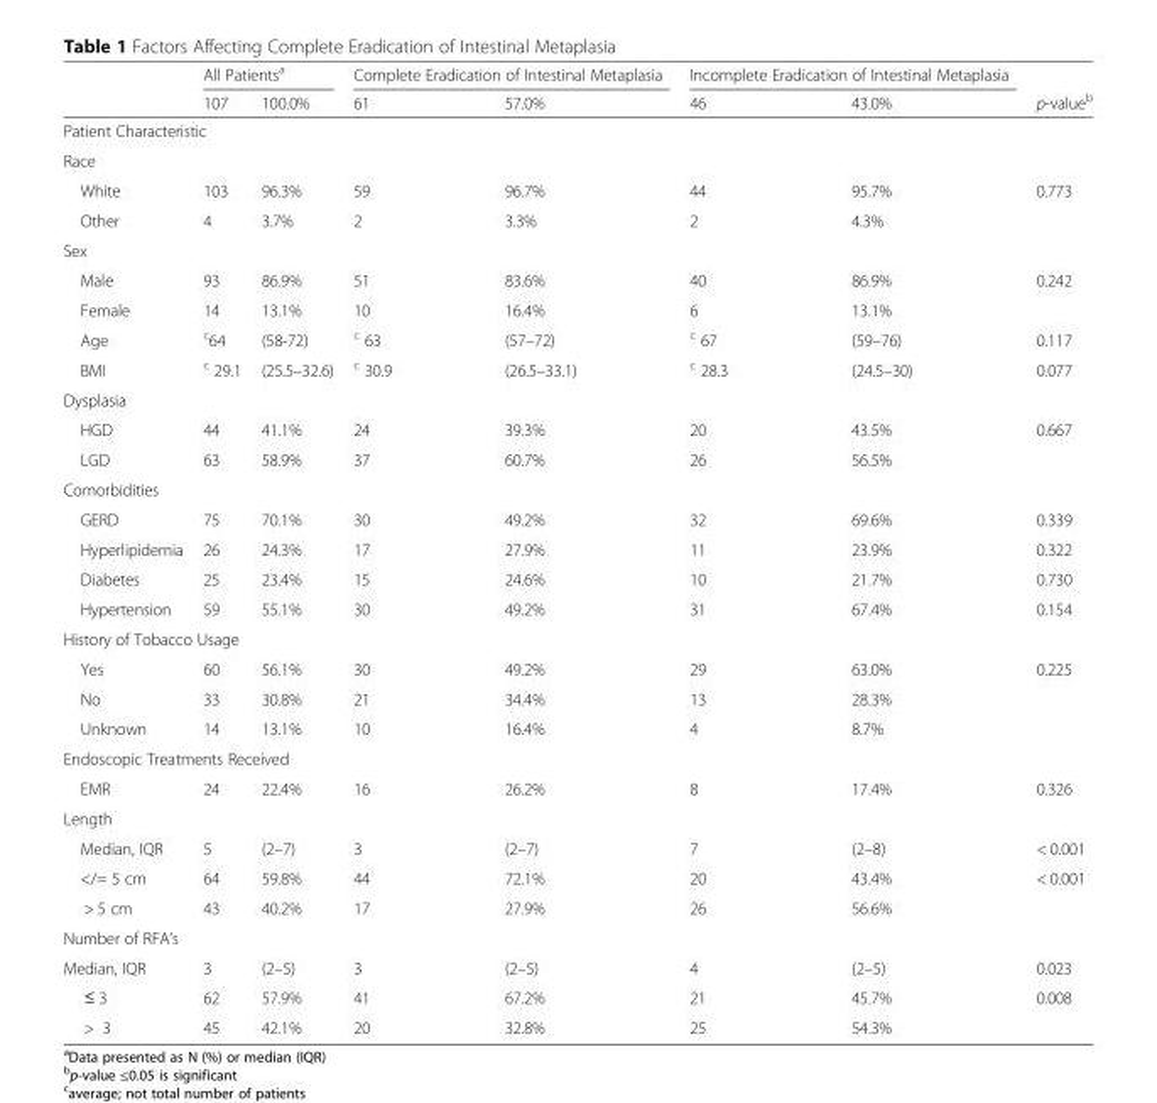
<table><thead><tr><td rowspan="2"></td><td colspan="2">All Patients<sup>a</sup></td><td colspan="2">Complete Eradication of Intestinal Metaplasia</td><td colspan="2">Incomplete Eradication of Intestinal Metaplasia</td><td rowspan="2">p-value<sup>b</sup></td></tr><tr><td>107</td><td>100.0%</td><td>61</td><td>57.0%</td><td>46</td><td>43.0%</td></tr></thead><tbody><tr><td colspan="8">Patient Characteristic</td></tr><tr><td colspan="8">Race</td></tr><tr><td>White</td><td>103</td><td>96.3%</td><td>59</td><td>96.7%</td><td>44</td><td>95.7%</td><td rowspan="2">0.773</td></tr><tr><td>Other</td><td>4</td><td>3.7%</td><td>2</td><td>3.3%</td><td>2</td><td>4.3%</td></tr><tr><td colspan="8">Sex</td></tr><tr><td>Male</td><td>93</td><td>86.9%</td><td>51</td><td>83.6%</td><td>40</td><td>86.9%</td><td rowspan="2">0.242</td></tr><tr><td>Female</td><td>14</td><td>13.1%</td><td>10</td><td>16.4%</td><td>6</td><td>13.1%</td></tr><tr><td>Age</td><td><sup>c</sup>64</td><td>(58-72)</td><td><sup>c</sup> 63</td><td>(57–72)</td><td><sup>c</sup> 67</td><td>(59–76)</td><td>0.117</td></tr><tr><td>BMI</td><td><sup>c</sup> 29.1</td><td>(25.5–32.6)</td><td><sup>c</sup> 30.9</td><td>(26.5–33.1)</td><td><sup>c</sup> 28.3</td><td>(24.5–30)</td><td>0.077</td></tr><tr><td colspan="8">Dysplasia</td></tr><tr><td>HGD</td><td>44</td><td>41.1%</td><td>24</td><td>39.3%</td><td>20</td><td>43.5%</td><td rowspan="2">0.667</td></tr><tr><td>LGD</td><td>63</td><td>58.9%</td><td>37</td><td>60.7%</td><td>26</td><td>56.5%</td></tr><tr><td colspan="8">Comorbidities</td></tr><tr><td>GERD</td><td>75</td><td>70.1%</td><td>30</td><td>49.2%</td><td>32</td><td>69.6%</td><td>0.339</td></tr><tr><td>Hyperlipidemia</td><td>26</td><td>24.3%</td><td>17</td><td>27.9%</td><td>11</td><td>23.9%</td><td>0.322</td></tr><tr><td>Diabetes</td><td>25</td><td>23.4%</td><td>15</td><td>24.6%</td><td>10</td><td>21.7%</td><td>0.730</td></tr><tr><td>Hypertension</td><td>59</td><td>55.1%</td><td>30</td><td>49.2%</td><td>31</td><td>67.4%</td><td>0.154</td></tr><tr><td colspan="8">History of Tobacco Usage</td></tr><tr><td>Yes</td><td>60</td><td>56.1%</td><td>30</td><td>49.2%</td><td>29</td><td>63.0%</td><td rowspan="3">0.225</td></tr><tr><td>No</td><td>33</td><td>30.8%</td><td>21</td><td>34.4%</td><td>13</td><td>28.3%</td></tr><tr><td>Unknown</td><td>14</td><td>13.1%</td><td>10</td><td>16.4%</td><td>4</td><td>8.7%</td></tr><tr><td colspan="8">Endoscopic Treatments Received</td></tr><tr><td>EMR</td><td>24</td><td>22.4%</td><td>16</td><td>26.2%</td><td>8</td><td>17.4%</td><td>0.326</td></tr><tr><td colspan="8">Length</td></tr><tr><td>Median, IQR</td><td>5</td><td>(2–7)</td><td>3</td><td>(2–7)</td><td>7</td><td>(2–8)</td><td>&lt; 0.001</td></tr><tr><td>&lt;/= 5 cm</td><td>64</td><td>59.8%</td><td>44</td><td>72.1%</td><td>20</td><td>43.4%</td><td rowspan="2">&lt; 0.001</td></tr><tr><td>&gt; 5 cm</td><td>43</td><td>40.2%</td><td>17</td><td>27.9%</td><td>26</td><td>56.6%</td></tr><tr><td colspan="8">Number of RFA’s</td></tr><tr><td>Median, IQR</td><td>3</td><td>(2–5)</td><td>3</td><td>(2–5)</td><td>4</td><td>(2–5)</td><td>0.023</td></tr><tr><td>≤ 3</td><td>62</td><td>57.9%</td><td>41</td><td>67.2%</td><td>21</td><td>45.7%</td><td rowspan="2">0.008</td></tr><tr><td>&gt; 3</td><td>45</td><td>42.1%</td><td>20</td><td>32.8%</td><td>25</td><td>54.3%</td></tr></tbody></table>